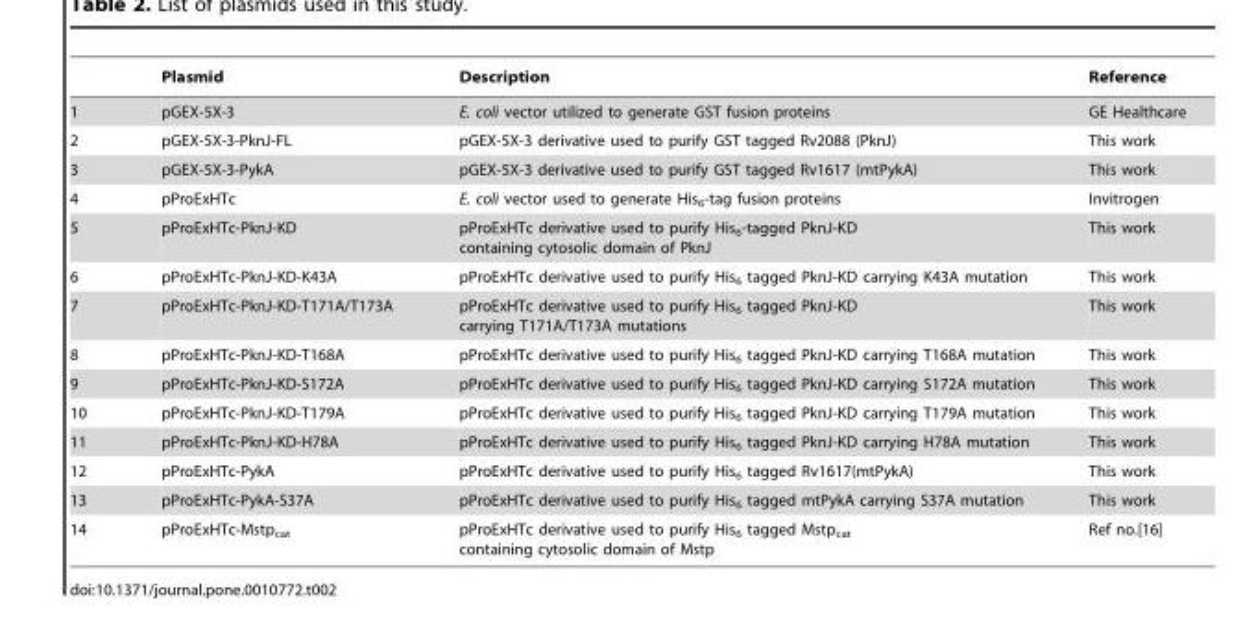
<table><thead><tr><td></td><td>Plasmid</td><td>Description</td><td>Reference</td></tr></thead><tbody><tr><td>1</td><td>pGEX-5X-3</td><td>E. coli vector utilized to generate GST fusion proteins</td><td>GE Healthcare</td></tr><tr><td>2</td><td>pGEX-5X-3-PknJ-FL</td><td>pGEX-5X-3 derivative used to purify GST tagged Rv2088 (PknJ)</td><td>This work</td></tr><tr><td>3</td><td>pGEX-5X-3-PykA</td><td>pGEX-5X-3 derivative used to purify GST tagged Rv1617 (mtPykA)</td><td>This work</td></tr><tr><td>4</td><td>pProExHTc</td><td>E. coli vector used to generate His<sub>6</sub>-tag fusion proteins</td><td>Invitrogen</td></tr><tr><td>5</td><td>pProExHTc-PknJ-KD</td><td>pProExHTc derivative used to purify His<sub>6</sub>-tagged PknJ-KD containing cytosolic domain of PknJ</td><td>This work</td></tr><tr><td>6</td><td>pProExHTc-PknJ-KD-K43A</td><td>pProExHTc derivative used to purify His<sub>6</sub> tagged PknJ-KD carrying K43A mutation</td><td>This work</td></tr><tr><td>7</td><td>pProExHTc-PknJ-KD-T171A/T173A</td><td>pProExHTc derivative used to purify His<sub>6</sub> tagged PknJ-KD carrying T171A/T173A mutations</td><td>This work</td></tr><tr><td>8</td><td>pProExHTc-PknJ-KD-T168A</td><td>pProExHTc derivative used to purify His<sub>6</sub> tagged PknJ-KD carrying T168A mutation</td><td>This work</td></tr><tr><td>9</td><td>pProExHTc-PknJ-KD-S172A</td><td>pProExHTc derivative used to purify His<sub>6</sub> tagged PknJ-KD carrying S172A mutation</td><td>This work</td></tr><tr><td>10</td><td>pProExHTc-PknJ-KD-T179A</td><td>pProExHTc derivative used to purify His<sub>6</sub> tagged PknJ-KD carrying T179A mutation</td><td>This work</td></tr><tr><td>11</td><td>pProExHTc-PknJ-KD-H78A</td><td>pProExHTc derivative used to purify His<sub>6</sub> tagged PknJ-KD carrying H78A mutation</td><td>This work</td></tr><tr><td>12</td><td>pProExHTc-PykA</td><td>pProExHTc derivative used to purify His<sub>6</sub> tagged Rv1617(mtPykA)</td><td>This work</td></tr><tr><td>13</td><td>pProExHTc-PykA-S37A</td><td>pProExHTc derivative used to purify His<sub>6</sub> tagged mtPykA carrying S37A mutation</td><td>This work</td></tr><tr><td>14</td><td>pProExHTc-Mstp<sub>cat</sub></td><td>pProExHTc derivative used to purify His<sub>6</sub> tagged Mstp<sub>cat</sub> containing cytosolic domain of Mstp</td><td>Ref no.[16]</td></tr></tbody></table>